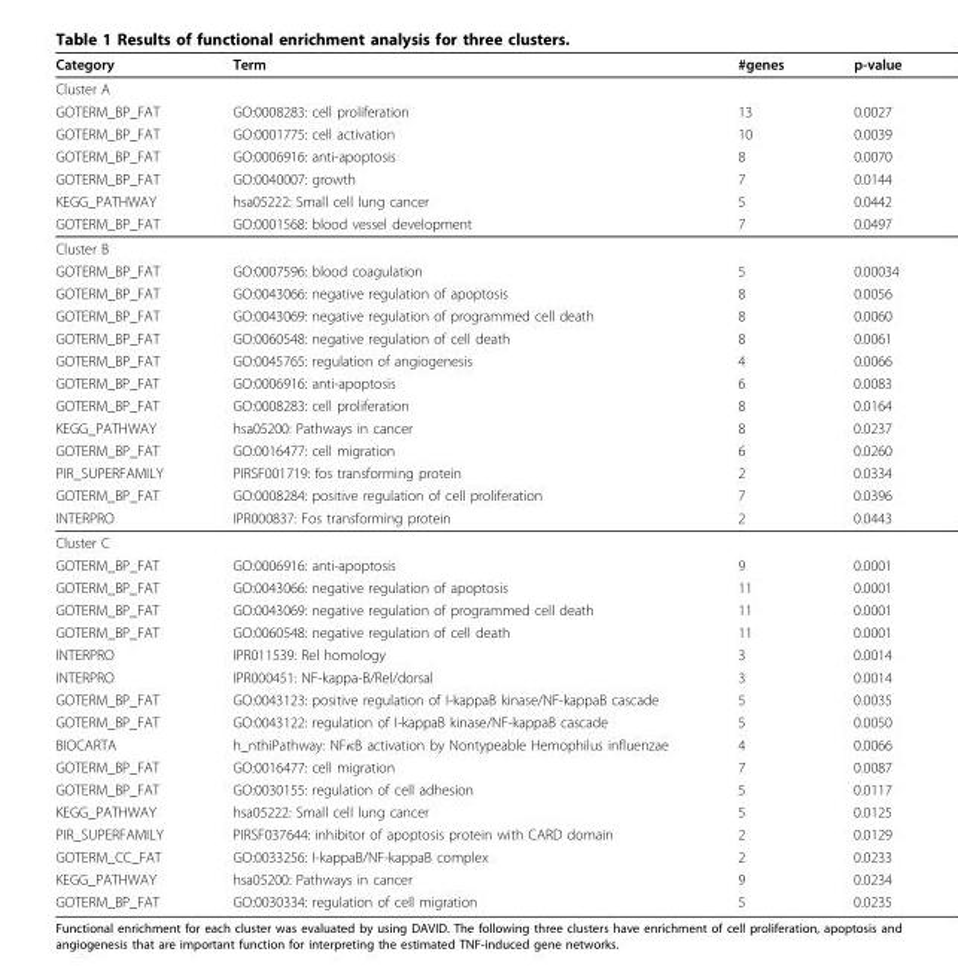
<table><thead><tr><td>Category</td><td>Term</td><td>#genes</td><td>p-value</td></tr></thead><tbody><tr><td colspan="4">Cluster A</td></tr><tr><td>GOTERM_BP_FAT</td><td>GO:0008283: cell proliferation</td><td>13</td><td>0.0027</td></tr><tr><td>GOTERM_BP_FAT</td><td>GO:0001775: cell activation</td><td>10</td><td>0.0039</td></tr><tr><td>GOTERM_BP_FAT</td><td>GO:0006916: anti-apoptosis</td><td>8</td><td>0.0070</td></tr><tr><td>GOTERM_BP_FAT</td><td>GO:0040007: growth</td><td>7</td><td>0.0144</td></tr><tr><td>KEGG_PATHWAY</td><td>hsa05222: Small cell lung cancer</td><td>5</td><td>0.0442</td></tr><tr><td>GOTERM_BP_FAT</td><td>GO:0001568: blood vessel development</td><td>7</td><td>0.0497</td></tr><tr><td colspan="4">Cluster B</td></tr><tr><td>GOTERM_BP_FAT</td><td>GO:0007596: blood coagulation</td><td>5</td><td>0.00034</td></tr><tr><td>GOTERM_BP_FAT</td><td>GO:0043066: negative regulation of apoptosis</td><td>8</td><td>0.0056</td></tr><tr><td>GOTERM_BP_FAT</td><td>GO:0043069: negative regulation of programmed cell death</td><td>8</td><td>0.0060</td></tr><tr><td>GOTERM_BP_FAT</td><td>GO:0060548: negative regulation of cell death</td><td>8</td><td>0.0061</td></tr><tr><td>GOTERM_BP_FAT</td><td>GO:0045765: regulation of angiogenesis</td><td>4</td><td>0.0066</td></tr><tr><td>GOTERM_BP_FAT</td><td>GO:0006916: anti-apoptosis</td><td>6</td><td>0.0083</td></tr><tr><td>GOTERM_BP_FAT</td><td>GO:0008283: cell proliferation</td><td>8</td><td>0.0164</td></tr><tr><td>KEGG_PATHWAY</td><td>hsa05200: Pathways in cancer</td><td>8</td><td>0.0237</td></tr><tr><td>GOTERM_BP_FAT</td><td>GO:0016477: cell migration</td><td>6</td><td>0.0260</td></tr><tr><td>PIR_SUPERFAMILY</td><td>PIRSF001719: fos transforming protein</td><td>2</td><td>0.0334</td></tr><tr><td>GOTERM_BP_FAT</td><td>GO:0008284: positive regulation of cell proliferation</td><td>7</td><td>0.0396</td></tr><tr><td>INTERPRO</td><td>IPR000837: Fos transforming protein</td><td>2</td><td>0.0443</td></tr><tr><td colspan="4">Cluster C</td></tr><tr><td>GOTERM_BP_FAT</td><td>GO:0006916: anti-apoptosis</td><td>9</td><td>0.0001</td></tr><tr><td>GOTERM_BP_FAT</td><td>GO:0043066: negative regulation of apoptosis</td><td>11</td><td>0.0001</td></tr><tr><td>GOTERM_BP_FAT</td><td>GO:0043069: negative regulation of programmed cell death</td><td>11</td><td>0.0001</td></tr><tr><td>GOTERM_BP_FAT</td><td>GO:0060548: negative regulation of cell death</td><td>11</td><td>0.0001</td></tr><tr><td>INTERPRO</td><td>IPR011539: Rel homology</td><td>3</td><td>0.0014</td></tr><tr><td>INTERPRO</td><td>IPR000451: NF-kappa-B/Rel/dorsal</td><td>3</td><td>0.0014</td></tr><tr><td>GOTERM_BP_FAT</td><td>GO:0043123: positive regulation of I-kappaB kinase/NF-kappaB cascade</td><td>5</td><td>0.0035</td></tr><tr><td>GOTERM_BP_FAT</td><td>GO:0043122: regulation of I-kappaB kinase/NF-kappaB cascade</td><td>5</td><td>0.0050</td></tr><tr><td>BIOCARTA</td><td>h_nthiPathway: NFκB activation by Nontypeable Hemophilus influenzae</td><td>4</td><td>0.0066</td></tr><tr><td>GOTERM_BP_FAT</td><td>GO:0016477: cell migration</td><td>7</td><td>0.0087</td></tr><tr><td>GOTERM_BP_FAT</td><td>GO:0030155: regulation of cell adhesion</td><td>5</td><td>0.0117</td></tr><tr><td>KEGG_PATHWAY</td><td>hsa05222: Small cell lung cancer</td><td>5</td><td>0.0125</td></tr><tr><td>PIR_SUPERFAMILY</td><td>PIRSF037644: inhibitor of apoptosis protein with CARD domain</td><td>2</td><td>0.0129</td></tr><tr><td>GOTERM_CC_FAT</td><td>GO:0033256: I-kappaB/NF-kappaB complex</td><td>2</td><td>0.0233</td></tr><tr><td>KEGG_PATHWAY</td><td>hsa05200: Pathways in cancer</td><td>9</td><td>0.0234</td></tr><tr><td>GOTERM_BP_FAT</td><td>GO:0030334: regulation of cell migration</td><td>5</td><td>0.0235</td></tr></tbody></table>